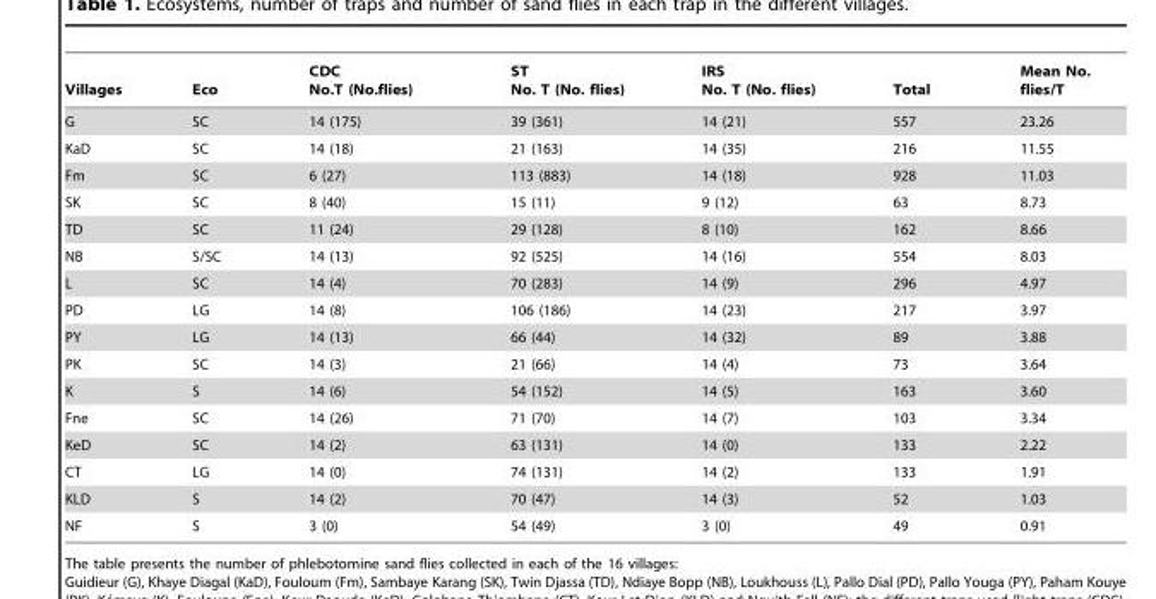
<table><thead><tr><td>Villages</td><td>Eco</td><td>CDC No.T (No.flies)</td><td>ST No. T (No. flies)</td><td>IRS No. T (No. flies)</td><td>Total</td><td>Mean No. flies/T</td></tr></thead><tbody><tr><td>G</td><td>SC</td><td>14 (175)</td><td>39 (361)</td><td>14 (21)</td><td>557</td><td>23.26</td></tr><tr><td>KaD</td><td>SC</td><td>14 (18)</td><td>21 (163)</td><td>14 (35)</td><td>216</td><td>11.55</td></tr><tr><td>Fm</td><td>SC</td><td>6 (27)</td><td>113 (883)</td><td>14 (18)</td><td>928</td><td>11.03</td></tr><tr><td>SK</td><td>SC</td><td>8 (40)</td><td>15 (11)</td><td>9 (12)</td><td>63</td><td>8.73</td></tr><tr><td>TD</td><td>SC</td><td>11 (24)</td><td>29 (128)</td><td>8 (10)</td><td>162</td><td>8.66</td></tr><tr><td>NB</td><td>S/SC</td><td>14 (13)</td><td>92 (525)</td><td>14 (16)</td><td>554</td><td>8.03</td></tr><tr><td>L</td><td>SC</td><td>14 (4)</td><td>70 (283)</td><td>14 (9)</td><td>296</td><td>4.97</td></tr><tr><td>PD</td><td>LG</td><td>14 (8)</td><td>106 (186)</td><td>14 (23)</td><td>217</td><td>3.97</td></tr><tr><td>PY</td><td>LG</td><td>14 (13)</td><td>66 (44)</td><td>14 (32)</td><td>89</td><td>3.88</td></tr><tr><td>PK</td><td>SC</td><td>14 (3)</td><td>21 (66)</td><td>14 (4)</td><td>73</td><td>3.64</td></tr><tr><td>K</td><td>S</td><td>14 (6)</td><td>54 (152)</td><td>14 (5)</td><td>163</td><td>3.60</td></tr><tr><td>Fne</td><td>SC</td><td>14 (26)</td><td>71 (70)</td><td>14 (7)</td><td>103</td><td>3.34</td></tr><tr><td>KeD</td><td>SC</td><td>14 (2)</td><td>63 (131)</td><td>14 (0)</td><td>133</td><td>2.22</td></tr><tr><td>CT</td><td>LG</td><td>14 (0)</td><td>74 (131)</td><td>14 (2)</td><td>133</td><td>1.91</td></tr><tr><td>KLD</td><td>S</td><td>14 (2)</td><td>70 (47)</td><td>14 (3)</td><td>52</td><td>1.03</td></tr><tr><td>NF</td><td>S</td><td>3 (0)</td><td>54 (49)</td><td>3 (0)</td><td>49</td><td>0.91</td></tr></tbody></table>